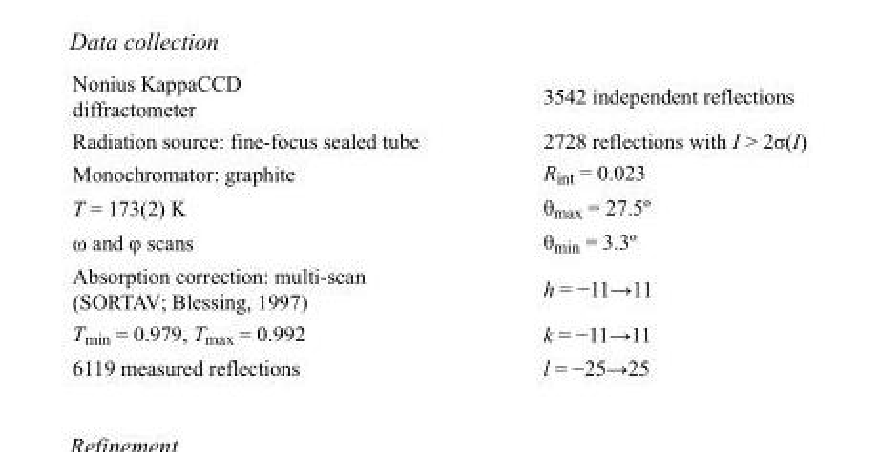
<table><tbody><tr><td>Nonius KappaCCD diffractometer</td><td>3542 independent reflections</td></tr><tr><td>Radiation source: fine-focus sealed tube</td><td>2728 reflections with I &gt; 2σ(I)</td></tr><tr><td>Monochromator: graphite</td><td>R<sub>int</sub> = 0.023</td></tr><tr><td>T = 173(2) K</td><td>θ<sub>max</sub> = 27.5º</td></tr><tr><td>ω and φ scans</td><td>θ<sub>min</sub> = 3.3º</td></tr><tr><td>Absorption correction: multi-scan (SORTAV; Blessing, 1997)</td><td>h = −11→11</td></tr><tr><td>T<sub>min</sub> = 0.979, T<sub>max</sub> = 0.992</td><td>k = −11→11</td></tr><tr><td>6119 measured reflections</td><td>l = −25→25</td></tr></tbody></table>